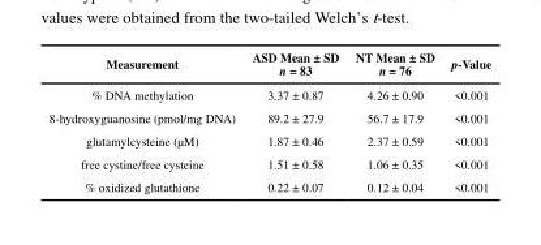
<table><thead><tr><td>Measurement</td><td>ASD Mean ± SD n = 83</td><td>NT Mean ± SD n = 76</td><td>p-Value</td></tr></thead><tbody><tr><td>% DNA methylation</td><td>3.37 ± 0.87</td><td>4.26 ± 0.90</td><td>&lt;0.001</td></tr><tr><td>8-hydroxyguanosine (pmol/mg DNA)</td><td>89.2 ± 27.9</td><td>56.7 ± 17.9</td><td>&lt;0.001</td></tr><tr><td>glutamylcysteine (μM)</td><td>1.87 ± 0.46</td><td>2.37 ± 0.59</td><td>&lt;0.001</td></tr><tr><td>free cystine/free cysteine</td><td>1.51 ± 0.58</td><td>1.06 ± 0.35</td><td>&lt;0.001</td></tr><tr><td>% oxidized glutathione</td><td>0.22 ± 0.07</td><td>0.12 ± 0.04</td><td>&lt;0.001</td></tr></tbody></table>